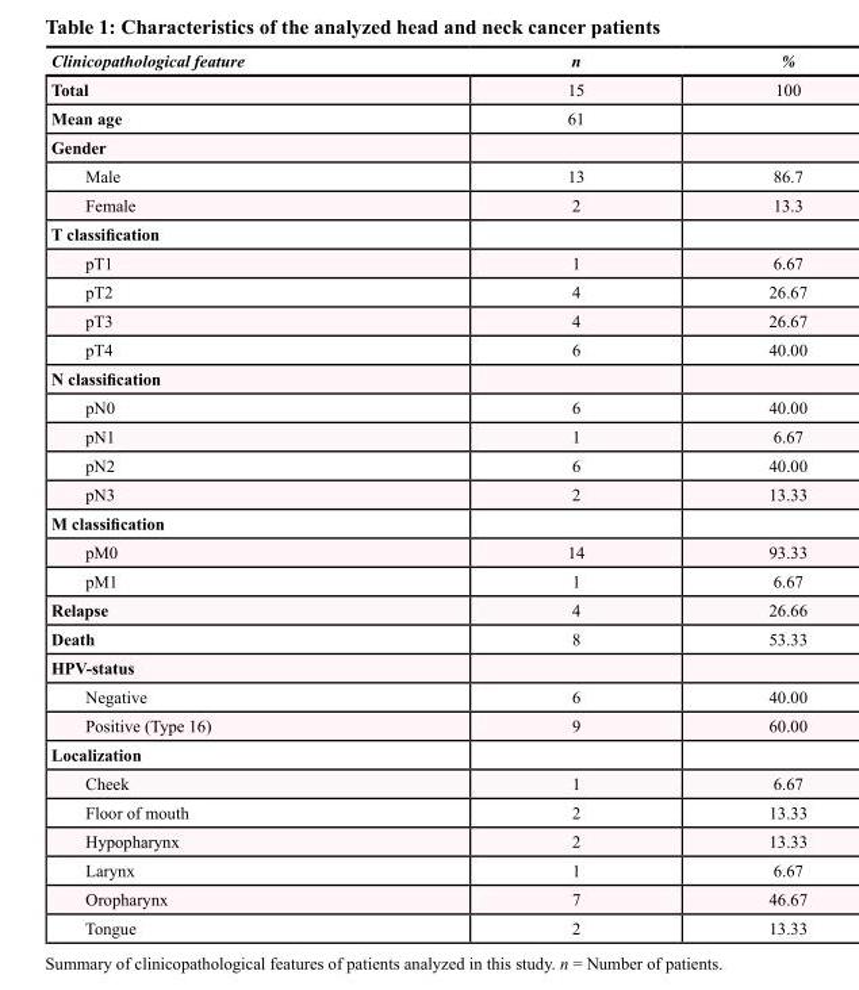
<table><thead><tr><td>Clinicopathological feature</td><td>n</td><td>%</td></tr></thead><tbody><tr><td>Total</td><td>15</td><td>100</td></tr><tr><td>Mean age</td><td>61</td><td></td></tr><tr><td colspan="3">Gender</td></tr><tr><td>Male</td><td>13</td><td>86.7</td></tr><tr><td>Female</td><td>2</td><td>13.3</td></tr><tr><td colspan="3">T classification</td></tr><tr><td>pT1</td><td>1</td><td>6.67</td></tr><tr><td>pT2</td><td>4</td><td>26.67</td></tr><tr><td>pT3</td><td>4</td><td>26.67</td></tr><tr><td>pT4</td><td>6</td><td>40.00</td></tr><tr><td colspan="3">N classification</td></tr><tr><td>pN0</td><td>6</td><td>40.00</td></tr><tr><td>pN1</td><td>1</td><td>6.67</td></tr><tr><td>pN2</td><td>6</td><td>40.00</td></tr><tr><td>pN3</td><td>2</td><td>13.33</td></tr><tr><td colspan="3">M classification</td></tr><tr><td>pM0</td><td>14</td><td>93.33</td></tr><tr><td>pM1</td><td>1</td><td>6.67</td></tr><tr><td>Relapse</td><td>4</td><td>26.66</td></tr><tr><td>Death</td><td>8</td><td>53.33</td></tr><tr><td colspan="3">HPV-status</td></tr><tr><td>Negative</td><td>6</td><td>40.00</td></tr><tr><td>Positive (Type 16)</td><td>9</td><td>60.00</td></tr><tr><td colspan="3">Localization</td></tr><tr><td>Cheek</td><td>1</td><td>6.67</td></tr><tr><td>Floor of mouth</td><td>2</td><td>13.33</td></tr><tr><td>Hypopharynx</td><td>2</td><td>13.33</td></tr><tr><td>Larynx</td><td>1</td><td>6.67</td></tr><tr><td>Oropharynx</td><td>7</td><td>46.67</td></tr><tr><td>Tongue</td><td>2</td><td>13.33</td></tr></tbody></table>